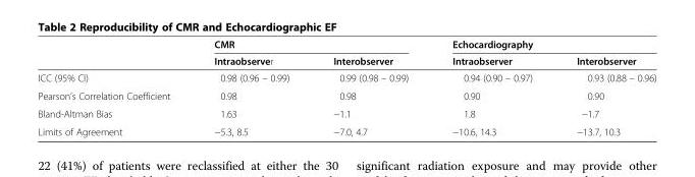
<table><thead><tr><td rowspan="2"></td><td colspan="2">CMR</td><td colspan="2">Echocardiography</td></tr><tr><td>Intraobserver</td><td>Interobserver</td><td>Intraobserver</td><td>Interobserver</td></tr></thead><tbody><tr><td>ICC (95% CI)</td><td>0.98 (0.96 – 0.99)</td><td>0.99 (0.98 – 0.99)</td><td>0.94 (0.90 – 0.97)</td><td>0.93 (0.88 – 0.96)</td></tr><tr><td>Pearson’s Correlation Coefficient</td><td>0.98</td><td>0.98</td><td>0.90</td><td>0.90</td></tr><tr><td>Bland-Altman Bias</td><td>1.63</td><td>−1.1</td><td>1.8</td><td>−1.7</td></tr><tr><td>Limits of Agreement</td><td>−5.3, 8.5</td><td>−7.0, 4.7</td><td>−10.6, 14.3</td><td>−13.7, 10.3</td></tr></tbody></table>